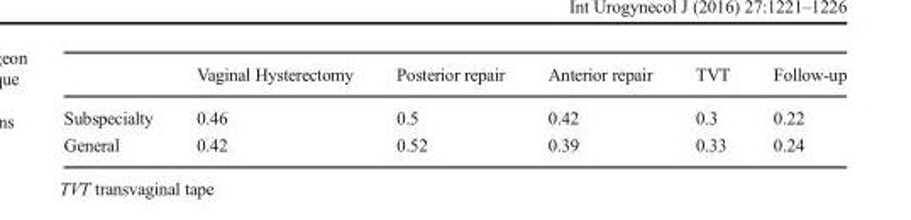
<table><thead><tr><td></td><td>Vaginal Hysterectomy</td><td>Posterior repair</td><td>Anterior repair</td><td>TVT</td><td>Follow-up</td></tr></thead><tbody><tr><td>Subspecialty</td><td>0.46</td><td>0.5</td><td>0.42</td><td>0.3</td><td>0.22</td></tr><tr><td>General</td><td>0.42</td><td>0.52</td><td>0.39</td><td>0.33</td><td>0.24</td></tr></tbody></table>